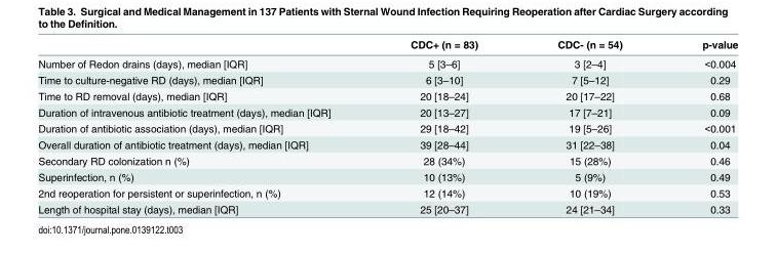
<table><thead><tr><td></td><td>CDC+ (n = 83)</td><td>CDC- (n = 54)</td><td>p-value</td></tr></thead><tbody><tr><td>Number of Redon drains (days), median [IQR]</td><td>5 [3–6]</td><td>3 [2–4]</td><td>&lt;0.004</td></tr><tr><td>Time to culture-negative RD (days), median [IQR]</td><td>6 [3–10]</td><td>7 [5–12]</td><td>0.29</td></tr><tr><td>Time to RD removal (days), median [IQR]</td><td>20 [18–24]</td><td>20 [17–22]</td><td>0.68</td></tr><tr><td>Duration of intravenous antibiotic treatment (days), median [IQR]</td><td>20 [13–27]</td><td>17 [7–21]</td><td>0.09</td></tr><tr><td>Duration of antibiotic association (days), median [IQR]</td><td>29 [18–42]</td><td>19 [5–26]</td><td>&lt;0.001</td></tr><tr><td>Overall duration of antibiotic treatment (days), median [IQR]</td><td>39 [28–44]</td><td>31 [22–38]</td><td>0.04</td></tr><tr><td>Secondary RD colonization n (%)</td><td>28 (34%)</td><td>15 (28%)</td><td>0.46</td></tr><tr><td>Superinfection, n (%)</td><td>10 (13%)</td><td>5 (9%)</td><td>0.49</td></tr><tr><td>2nd reoperation for persistent or superinfection, n (%)</td><td>12 (14%)</td><td>10 (19%)</td><td>0.53</td></tr><tr><td>Length of hospital stay (days), median [IQR]</td><td>25 [20–37]</td><td>24 [21–34]</td><td>0.33</td></tr></tbody></table>